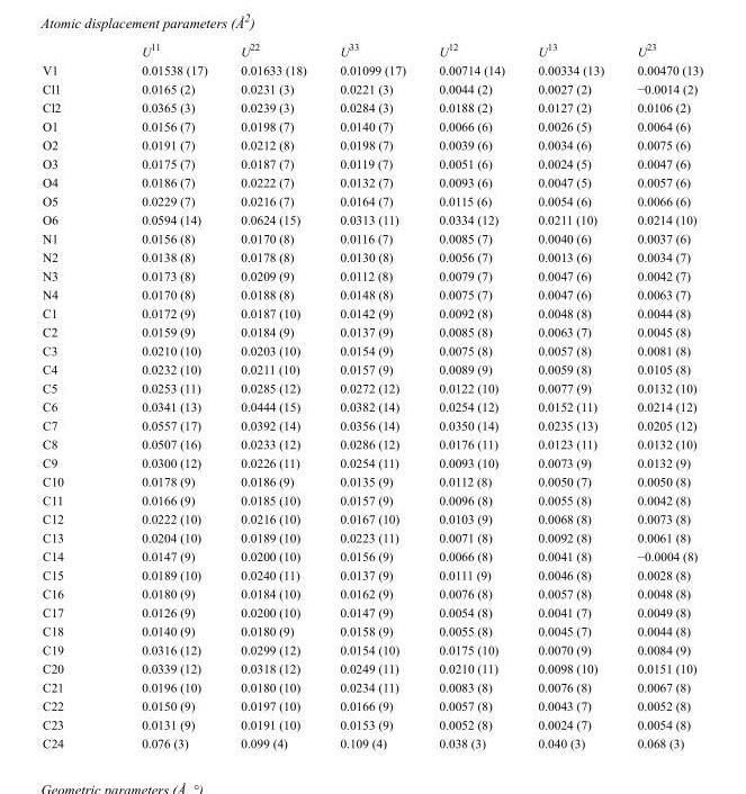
<table><thead><tr><td></td><td>U<sup>11</sup></td><td>U<sup>22</sup></td><td>U<sup>33</sup></td><td>U<sup>12</sup></td><td>U<sup>13</sup></td><td>U<sup>23</sup></td></tr></thead><tbody><tr><td>V1</td><td>0.01538 (17)</td><td>0.01633 (18)</td><td>0.01099 (17)</td><td>0.00714 (14)</td><td>0.00334 (13)</td><td>0.00470 (13)</td></tr><tr><td>Cl1</td><td>0.0165 (2)</td><td>0.0231 (3)</td><td>0.0221 (3)</td><td>0.0044 (2)</td><td>0.0027 (2)</td><td>−0.0014 (2)</td></tr><tr><td>Cl2</td><td>0.0365 (3)</td><td>0.0239 (3)</td><td>0.0284 (3)</td><td>0.0188 (2)</td><td>0.0127 (2)</td><td>0.0106 (2)</td></tr><tr><td>O1</td><td>0.0156 (7)</td><td>0.0198 (7)</td><td>0.0140 (7)</td><td>0.0066 (6)</td><td>0.0026 (5)</td><td>0.0064 (6)</td></tr><tr><td>O2</td><td>0.0191 (7)</td><td>0.0212 (8)</td><td>0.0198 (7)</td><td>0.0039 (6)</td><td>0.0034 (6)</td><td>0.0075 (6)</td></tr><tr><td>O3</td><td>0.0175 (7)</td><td>0.0187 (7)</td><td>0.0119 (7)</td><td>0.0051 (6)</td><td>0.0024 (5)</td><td>0.0047 (6)</td></tr><tr><td>O4</td><td>0.0186 (7)</td><td>0.0222 (7)</td><td>0.0132 (7)</td><td>0.0093 (6)</td><td>0.0047 (5)</td><td>0.0057 (6)</td></tr><tr><td>O5</td><td>0.0229 (7)</td><td>0.0216 (7)</td><td>0.0164 (7)</td><td>0.0115 (6)</td><td>0.0054 (6)</td><td>0.0066 (6)</td></tr><tr><td>O6</td><td>0.0594 (14)</td><td>0.0624 (15)</td><td>0.0313 (11)</td><td>0.0334 (12)</td><td>0.0211 (10)</td><td>0.0214 (10)</td></tr><tr><td>N1</td><td>0.0156 (8)</td><td>0.0170 (8)</td><td>0.0116 (7)</td><td>0.0085 (7)</td><td>0.0040 (6)</td><td>0.0037 (6)</td></tr><tr><td>N2</td><td>0.0138 (8)</td><td>0.0178 (8)</td><td>0.0130 (8)</td><td>0.0056 (7)</td><td>0.0013 (6)</td><td>0.0034 (7)</td></tr><tr><td>N3</td><td>0.0173 (8)</td><td>0.0209 (9)</td><td>0.0112 (8)</td><td>0.0079 (7)</td><td>0.0047 (6)</td><td>0.0042 (7)</td></tr><tr><td>N4</td><td>0.0170 (8)</td><td>0.0188 (8)</td><td>0.0148 (8)</td><td>0.0075 (7)</td><td>0.0047 (6)</td><td>0.0063 (7)</td></tr><tr><td>C1</td><td>0.0172 (9)</td><td>0.0187 (10)</td><td>0.0142 (9)</td><td>0.0092 (8)</td><td>0.0048 (8)</td><td>0.0044 (8)</td></tr><tr><td>C2</td><td>0.0159 (9)</td><td>0.0184 (9)</td><td>0.0137 (9)</td><td>0.0085 (8)</td><td>0.0063 (7)</td><td>0.0045 (8)</td></tr><tr><td>C3</td><td>0.0210 (10)</td><td>0.0203 (10)</td><td>0.0154 (9)</td><td>0.0075 (8)</td><td>0.0057 (8)</td><td>0.0081 (8)</td></tr><tr><td>C4</td><td>0.0232 (10)</td><td>0.0211 (10)</td><td>0.0157 (9)</td><td>0.0089 (9)</td><td>0.0059 (8)</td><td>0.0105 (8)</td></tr><tr><td>C5</td><td>0.0253 (11)</td><td>0.0285 (12)</td><td>0.0272 (12)</td><td>0.0122 (10)</td><td>0.0077 (9)</td><td>0.0132 (10)</td></tr><tr><td>C6</td><td>0.0341 (13)</td><td>0.0444 (15)</td><td>0.0382 (14)</td><td>0.0254 (12)</td><td>0.0152 (11)</td><td>0.0214 (12)</td></tr><tr><td>C7</td><td>0.0557 (17)</td><td>0.0392 (14)</td><td>0.0356 (14)</td><td>0.0350 (14)</td><td>0.0235 (13)</td><td>0.0205 (12)</td></tr><tr><td>C8</td><td>0.0507 (16)</td><td>0.0233 (12)</td><td>0.0286 (12)</td><td>0.0176 (11)</td><td>0.0123 (11)</td><td>0.0132 (10)</td></tr><tr><td>C9</td><td>0.0300 (12)</td><td>0.0226 (11)</td><td>0.0254 (11)</td><td>0.0093 (10)</td><td>0.0073 (9)</td><td>0.0132 (9)</td></tr><tr><td>C10</td><td>0.0178 (9)</td><td>0.0186 (9)</td><td>0.0135 (9)</td><td>0.0112 (8)</td><td>0.0050 (7)</td><td>0.0050 (8)</td></tr><tr><td>C11</td><td>0.0166 (9)</td><td>0.0185 (10)</td><td>0.0157 (9)</td><td>0.0096 (8)</td><td>0.0055 (8)</td><td>0.0042 (8)</td></tr><tr><td>C12</td><td>0.0222 (10)</td><td>0.0216 (10)</td><td>0.0167 (10)</td><td>0.0103 (9)</td><td>0.0068 (8)</td><td>0.0073 (8)</td></tr><tr><td>C13</td><td>0.0204 (10)</td><td>0.0189 (10)</td><td>0.0223 (11)</td><td>0.0071 (8)</td><td>0.0092 (8)</td><td>0.0061 (8)</td></tr><tr><td>C14</td><td>0.0147 (9)</td><td>0.0200 (10)</td><td>0.0156 (9)</td><td>0.0066 (8)</td><td>0.0041 (8)</td><td>−0.0004 (8)</td></tr><tr><td>C15</td><td>0.0189 (10)</td><td>0.0240 (11)</td><td>0.0137 (9)</td><td>0.0111 (9)</td><td>0.0046 (8)</td><td>0.0028 (8)</td></tr><tr><td>C16</td><td>0.0180 (9)</td><td>0.0184 (10)</td><td>0.0162 (9)</td><td>0.0076 (8)</td><td>0.0057 (8)</td><td>0.0048 (8)</td></tr><tr><td>C17</td><td>0.0126 (9)</td><td>0.0200 (10)</td><td>0.0147 (9)</td><td>0.0054 (8)</td><td>0.0041 (7)</td><td>0.0049 (8)</td></tr><tr><td>C18</td><td>0.0140 (9)</td><td>0.0180 (9)</td><td>0.0158 (9)</td><td>0.0055 (8)</td><td>0.0045 (7)</td><td>0.0044 (8)</td></tr><tr><td>C19</td><td>0.0316 (12)</td><td>0.0299 (12)</td><td>0.0154 (10)</td><td>0.0175 (10)</td><td>0.0070 (9)</td><td>0.0084 (9)</td></tr><tr><td>C20</td><td>0.0339 (12)</td><td>0.0318 (12)</td><td>0.0249 (11)</td><td>0.0210 (11)</td><td>0.0098 (10)</td><td>0.0151 (10)</td></tr><tr><td>C21</td><td>0.0196 (10)</td><td>0.0180 (10)</td><td>0.0234 (11)</td><td>0.0083 (8)</td><td>0.0076 (8)</td><td>0.0067 (8)</td></tr><tr><td>C22</td><td>0.0150 (9)</td><td>0.0197 (10)</td><td>0.0166 (9)</td><td>0.0057 (8)</td><td>0.0043 (7)</td><td>0.0052 (8)</td></tr><tr><td>C23</td><td>0.0131 (9)</td><td>0.0191 (10)</td><td>0.0153 (9)</td><td>0.0052 (8)</td><td>0.0024 (7)</td><td>0.0054 (8)</td></tr><tr><td>C24</td><td>0.076 (3)</td><td>0.099 (4)</td><td>0.109 (4)</td><td>0.038 (3)</td><td>0.040 (3)</td><td>0.068 (3)</td></tr></tbody></table>